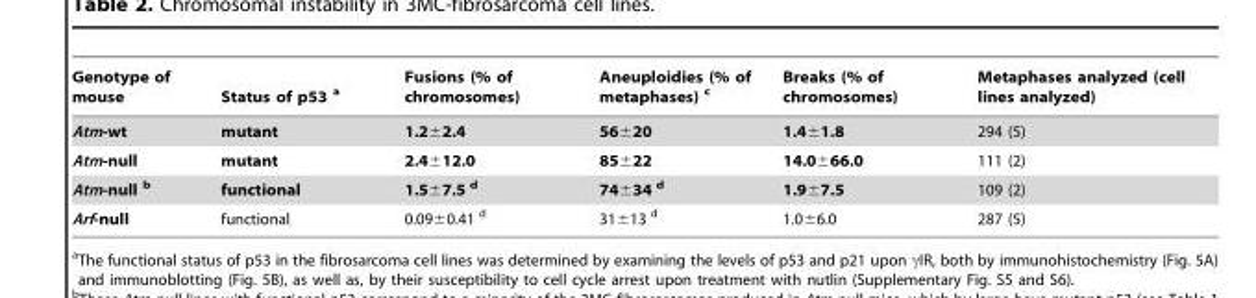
<table><thead><tr><td>Genotype of mouse</td><td>Status of p53 a</td><td>Fusions (% of chromosomes)</td><td>Aneuploidies (% of metaphases) c</td><td>Breaks (% of chromosomes)</td><td>Metaphases analyzed (cell lines analyzed)</td></tr></thead><tbody><tr><td>Atm-wt</td><td>mutant</td><td>1.2±2.4</td><td>56±20</td><td>1.4±1.8</td><td>294 (5)</td></tr><tr><td>Atm-null</td><td>mutant</td><td>2.4±12.0</td><td>85±22</td><td>14.0±66.0</td><td>111 (2)</td></tr><tr><td>Atm-null b</td><td>functional</td><td>1.5±7.5 d</td><td>74±34 d</td><td>1.9±7.5</td><td>109 (2)</td></tr><tr><td>Arf-null</td><td>functional</td><td>0.09±0.41 <sup>d</sup></td><td>31±13 <sup>d</sup></td><td>1.0±6.0</td><td>287 (5)</td></tr></tbody></table>